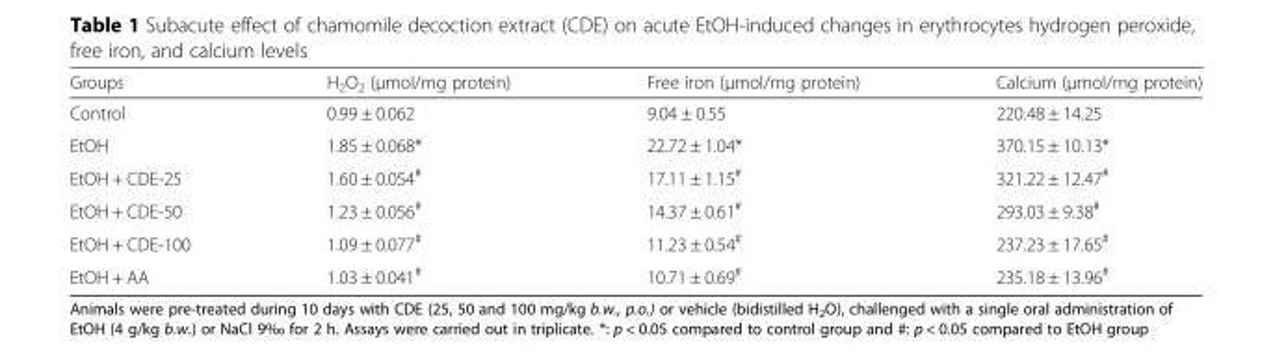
<table><thead><tr><td>Groups</td><td>H<sub>2</sub>O<sub>2</sub> (μmol/mg protein)</td><td>Free iron (μmol/mg protein)</td><td>Calcium (μmol/mg protein)</td></tr></thead><tbody><tr><td>Control</td><td>0.99 ± 0.062</td><td>9.04 ± 0.55</td><td>220.48 ± 14.25</td></tr><tr><td>EtOH</td><td>1.85 ± 0.068*</td><td>22.72 ± 1.04*</td><td>370.15 ± 10.13*</td></tr><tr><td>EtOH + CDE-25</td><td>1.60 ± 0.054<sup>#</sup></td><td>17.11 ± 1.15<sup>#</sup></td><td>321.22 ± 12.47<sup>#</sup></td></tr><tr><td>EtOH + CDE-50</td><td>1.23 ± 0.056<sup>#</sup></td><td>14.37 ± 0.61<sup>#</sup></td><td>293.03 ± 9.38<sup>#</sup></td></tr><tr><td>EtOH + CDE-100</td><td>1.09 ± 0.077<sup>#</sup></td><td>11.23 ± 0.54<sup>#</sup></td><td>237.23 ± 17.65<sup>#</sup></td></tr><tr><td>EtOH + AA</td><td>1.03 ± 0.041<sup>#</sup></td><td>10.71 ± 0.69<sup>#</sup></td><td>235.18 ± 13.96<sup>#</sup></td></tr></tbody></table>